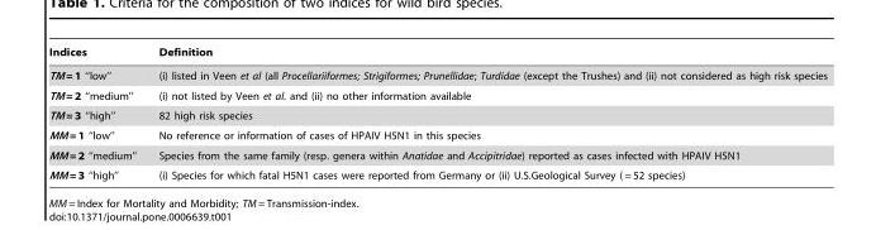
<table><thead><tr><td>Indices</td><td>Definition</td></tr></thead><tbody><tr><td>TM = 1 ‘‘low’’</td><td>(i) listed in Veen et al (all Procellariiformes; Strigiformes; Prunellidae; Turdidae (except the Trushes) and (ii) not considered as high risk species</td></tr><tr><td>TM = 2 ‘‘medium’’</td><td>(i) not listed by Veen et al. and (ii) no other information available</td></tr><tr><td>TM = 3 ‘‘high’’</td><td>82 high risk species</td></tr><tr><td>MM = 1 ‘‘low’’</td><td>No reference or information of cases of HPAIV H5N1 in this species</td></tr><tr><td>MM = 2 ‘‘medium’’</td><td>Species from the same family (resp. genera within Anatidae and Accipitridae) reported as cases infected with HPAIV H5N1</td></tr><tr><td>MM = 3 ‘‘high’’</td><td>(i) Species for which fatal H5N1 cases were reported from Germany or (ii) U.S.Geological Survey ( = 52 species)</td></tr></tbody></table>